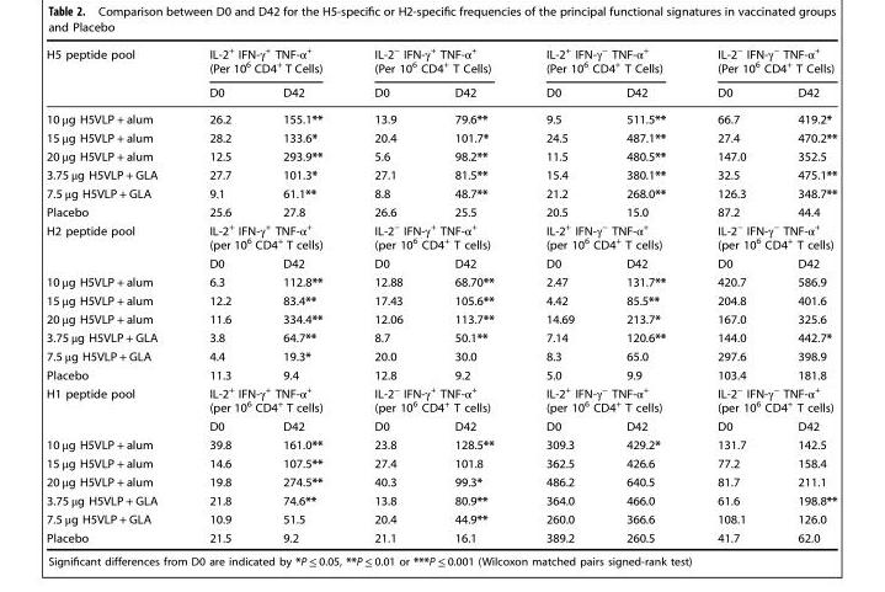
<table><thead><tr><td rowspan="2">H5 peptide pool</td><td colspan="2">IL-2<sup>+</sup> IFN-γ<sup>+</sup> TNF-α<sup>+</sup> (Per 10<sup>6</sup> CD4<sup>+</sup> T Cells)</td><td colspan="2">IL-2<sup>−</sup> IFN-γ<sup>+</sup> TNF-α<sup>+</sup> (Per 10<sup>6</sup> CD4<sup>+</sup> T Cells)</td><td colspan="2">IL-2<sup>+</sup> IFN-γ<sup>−</sup> TNF-α<sup>+</sup> (Per 10<sup>6</sup> CD4<sup>+</sup> T Cells)</td><td colspan="2">IL-2<sup>−</sup> IFN-γ<sup>−</sup> TNF-α<sup>+</sup> (Per 10<sup>6</sup> CD4<sup>+</sup> T Cells)</td></tr><tr><td>D0</td><td>D42</td><td>D0</td><td>D42</td><td>D0</td><td>D42</td><td>D0</td><td>D42</td></tr></thead><tbody><tr><td>10 μg H5VLP + alum</td><td>26.2</td><td>155.1**</td><td>13.9</td><td>79.6**</td><td>9.5</td><td>511.5**</td><td>66.7</td><td>419.2*</td></tr><tr><td>15 μg H5VLP + alum</td><td>28.2</td><td>133.6*</td><td>20.4</td><td>101.7*</td><td>24.5</td><td>487.1**</td><td>27.4</td><td>470.2**</td></tr><tr><td>20 μg H5VLP + alum</td><td>12.5</td><td>293.9**</td><td>5.6</td><td>98.2**</td><td>11.5</td><td>480.5**</td><td>147.0</td><td>352.5</td></tr><tr><td>3.75 μg H5VLP + GLA</td><td>27.7</td><td>101.3*</td><td>27.1</td><td>81.5**</td><td>15.4</td><td>380.1**</td><td>32.5</td><td>475.1**</td></tr><tr><td>7.5 μg H5VLP + GLA</td><td>9.1</td><td>61.1**</td><td>8.8</td><td>48.7**</td><td>21.2</td><td>268.0**</td><td>126.3</td><td>348.7**</td></tr><tr><td>Placebo</td><td>25.6</td><td>27.8</td><td>26.6</td><td>25.5</td><td>20.5</td><td>15.0</td><td>87.2</td><td>44.4</td></tr><tr><td rowspan="2">H2 peptide pool</td><td colspan="2">IL-2<sup>+</sup> IFN-γ<sup>+</sup> TNF-α<sup>+</sup> (per 10<sup>6</sup> CD4<sup>+</sup> T cells)</td><td colspan="2">IL-2<sup>−</sup> IFN-γ<sup>+</sup> TNF-α<sup>+</sup> (per 10<sup>6</sup> CD4<sup>+</sup> T cells)</td><td colspan="2">IL-2<sup>+</sup> IFN-γ<sup>−</sup> TNF-α<sup>+</sup> (per 10<sup>6</sup> CD4<sup>+</sup> T cells)</td><td colspan="2">IL-2<sup>−</sup> IFN-γ<sup>−</sup> TNF-α<sup>+</sup> (per 10<sup>6</sup> CD4<sup>+</sup> T cells)</td></tr><tr><td>D0</td><td>D42</td><td>D0</td><td>D42</td><td>D0</td><td>D42</td><td>D0</td><td>D42</td></tr><tr><td>10 μg H5VLP + alum</td><td>6.3</td><td>112.8**</td><td>12.88</td><td>68.70**</td><td>2.47</td><td>131.7**</td><td>420.7</td><td>586.9</td></tr><tr><td>15 μg H5VLP + alum</td><td>12.2</td><td>83.4**</td><td>17.43</td><td>105.6**</td><td>4.42</td><td>85.5**</td><td>204.8</td><td>401.6</td></tr><tr><td>20 μg H5VLP + alum</td><td>11.6</td><td>334.4**</td><td>12.06</td><td>113.7**</td><td>14.69</td><td>213.7*</td><td>167.0</td><td>325.6</td></tr><tr><td>3.75 μg H5VLP + GLA</td><td>3.8</td><td>64.7**</td><td>8.7</td><td>50.1**</td><td>7.14</td><td>120.6**</td><td>144.0</td><td>442.7*</td></tr><tr><td>7.5 μg H5VLP + GLA</td><td>4.4</td><td>19.3*</td><td>20.0</td><td>30.0</td><td>8.3</td><td>65.0</td><td>297.6</td><td>398.9</td></tr><tr><td>Placebo</td><td>11.3</td><td>9.4</td><td>12.8</td><td>9.2</td><td>5.0</td><td>9.9</td><td>103.4</td><td>181.8</td></tr><tr><td rowspan="2">H1 peptide pool</td><td colspan="2">IL-2<sup>+</sup> IFN-γ<sup>+</sup> TNF-α<sup>+</sup> (per 10<sup>6</sup> CD4<sup>+</sup> T cells)</td><td colspan="2">IL-2<sup>−</sup> IFN-γ<sup>+</sup> TNF-α<sup>+</sup> (per 10<sup>6</sup> CD4<sup>+</sup> T cells)</td><td colspan="2">IL-2<sup>+</sup> IFN-γ<sup>−</sup> TNF-α<sup>+</sup> (per 10<sup>6</sup> CD4<sup>+</sup> T cells)</td><td colspan="2">IL-2<sup>−</sup> IFN-γ<sup>−</sup> TNF-α<sup>+</sup> (per 10<sup>6</sup> CD4<sup>+</sup> T cells)</td></tr><tr><td>D0</td><td>D42</td><td>D0</td><td>D42</td><td>D0</td><td>D42</td><td>D0</td><td>D42</td></tr><tr><td>10 μg H5VLP + alum</td><td>39.8</td><td>161.0**</td><td>23.8</td><td>128.5**</td><td>309.3</td><td>429.2*</td><td>131.7</td><td>142.5</td></tr><tr><td>15 μg H5VLP + alum</td><td>14.6</td><td>107.5**</td><td>27.4</td><td>101.8</td><td>362.5</td><td>426.6</td><td>77.2</td><td>158.4</td></tr><tr><td>20 μg H5VLP + alum</td><td>19.8</td><td>274.5**</td><td>40.3</td><td>99.3*</td><td>486.2</td><td>640.5</td><td>81.7</td><td>211.1</td></tr><tr><td>3.75 μg H5VLP + GLA</td><td>21.8</td><td>74.6**</td><td>13.8</td><td>80.9**</td><td>364.0</td><td>466.0</td><td>61.6</td><td>198.8**</td></tr><tr><td>7.5 μg H5VLP + GLA</td><td>10.9</td><td>51.5</td><td>20.4</td><td>44.9**</td><td>260.0</td><td>366.6</td><td>108.1</td><td>126.0</td></tr><tr><td>Placebo</td><td>21.5</td><td>9.2</td><td>21.1</td><td>16.1</td><td>389.2</td><td>260.5</td><td>41.7</td><td>62.0</td></tr></tbody></table>